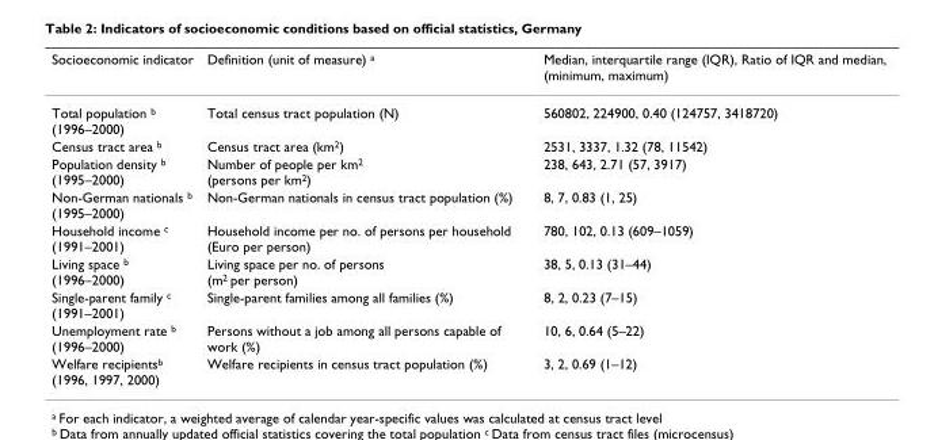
<table><thead><tr><td>Socioeconomic indicator</td><td>Definition (unit of measure) <sup>a</sup></td><td>Median, interquartile range (IQR), Ratio of IQR and median, (minimum, maximum)</td></tr></thead><tbody><tr><td>Total population <sup>b</sup> (1996–2000)</td><td>Total census tract population (N)</td><td>560802, 224900, 0.40 (124757, 3418720)</td></tr><tr><td>Census tract area <sup>b</sup></td><td>Census tract area (km<sup>2</sup>)</td><td>2531, 3337, 1.32 (78, 11542)</td></tr><tr><td>Population density <sup>b</sup> (1995–2000)</td><td>Number of people per km<sup>2</sup> (persons per km<sup>2</sup>)</td><td>238, 643, 2.71 (57, 3917)</td></tr><tr><td>Non-German nationals <sup>b</sup> (1995–2000)</td><td>Non-German nationals in census tract population (%)</td><td>8, 7, 0.83 (1, 25)</td></tr><tr><td>Household income <sup>c</sup> (1991–2001)</td><td>Household income per no. of persons per household (Euro per person)</td><td>780, 102, 0.13 (609–1059)</td></tr><tr><td>Living space <sup>b</sup> (1996–2000)</td><td>Living space per no. of persons (m<sup>2</sup> per person)</td><td>38, 5, 0.13 (31–44)</td></tr><tr><td>Single-parent family <sup>c</sup> (1991–2001)</td><td>Single-parent families among all families (%)</td><td>8, 2, 0.23 (7–15)</td></tr><tr><td>Unemployment rate <sup>b</sup> (1996–2000)</td><td>Persons without a job among all persons capable of work (%)</td><td>10, 6, 0.64 (5–22)</td></tr><tr><td>Welfare recipients<sup>b</sup> (1996, 1997, 2000)</td><td>Welfare recipients in census tract population (%)</td><td>3, 2, 0.69 (1–12)</td></tr></tbody></table>